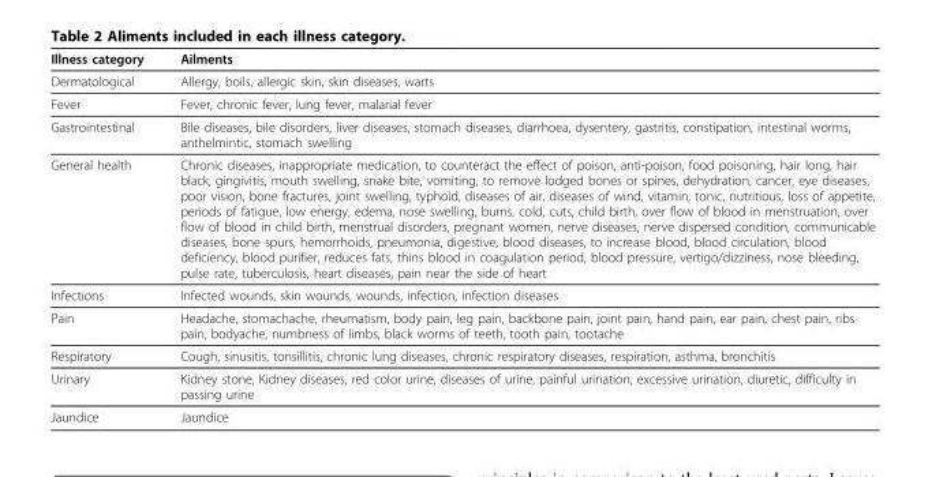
<table><thead><tr><td>Illness category</td><td>Ailments</td></tr></thead><tbody><tr><td>Dermatological</td><td>Allergy, boils, allergic skin, skin diseases, warts</td></tr><tr><td>Fever</td><td>Fever, chronic fever, lung fever, malarial fever</td></tr><tr><td>Gastrointestinal</td><td>Bile diseases, bile disorders, liver diseases, stomach diseases, diarrhoea, dysentery, gastritis, constipation, intestinal worms, anthelmintic, stomach swelling</td></tr><tr><td>General health</td><td>Chronic diseases, inappropriate medication, to counteract the effect of poison, anti-poison, food poisoning, hair long, hair black, gingivitis, mouth swelling, snake bite, vomiting, to remove lodged bones or spines, dehydration, cancer, eye diseases, poor vision, bone fractures, joint swelling, typhoid, diseases of air, diseases of wind, vitamin, tonic, nutritious, loss of appetite, periods of fatigue, low energy, edema, nose swelling, burns, cold, cuts, child birth, over flow of blood in menstruation, over flow of blood in child birth, menstrual disorders, pregnant women, nerve diseases, nerve dispersed condition, communicable diseases, bone spurs, hemorrhoids, pneumonia, digestive, blood diseases, to increase blood, blood circulation, blood deficiency, blood purifier, reduces fats, thins blood in coagulation period, blood pressure, vertigo/dizziness, nose bleeding, pulse rate, tuberculosis, heart diseases, pain near the side of heart</td></tr><tr><td>Infections</td><td>Infected wounds, skin wounds, wounds, infection, infection diseases</td></tr><tr><td>Pain</td><td>Headache, stomachache, rheumatism, body pain, leg pain, backbone pain, joint pain, hand pain, ear pain, chest pain, ribs pain, bodyache, numbness of limbs, black worms of teeth, tooth pain, tootache</td></tr><tr><td>Respiratory</td><td>Cough, sinusitis, tonsillitis, chronic lung diseases, chronic respiratory diseases, respiration, asthma, bronchitis</td></tr><tr><td>Urinary</td><td>Kidney stone, Kidney diseases, red color urine, diseases of urine, painful urination, excessive urination, diuretic, difficulty in passing urine</td></tr><tr><td>Jaundice</td><td>Jaundice</td></tr></tbody></table>